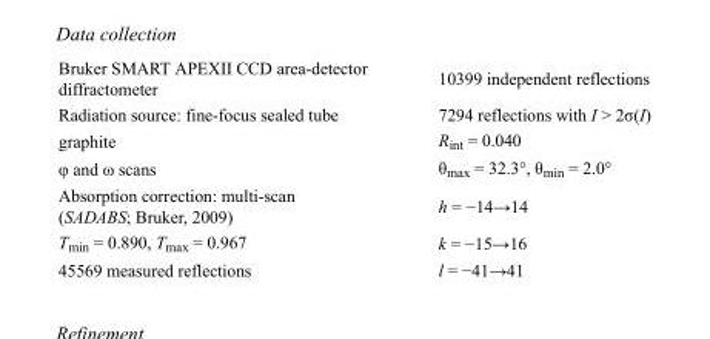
<table><tbody><tr><td>Bruker SMART APEXII CCD area-detector diffractometer</td><td>10399 independent reflections</td></tr><tr><td>Radiation source: fine-focus sealed tube</td><td>7294 reflections with I &gt; 2σ(I)</td></tr><tr><td>graphite</td><td>R<sub>int</sub> = 0.040</td></tr><tr><td>φ and ω scans</td><td>θ<sub>max</sub> = 32.3°, θ<sub>min</sub> = 2.0°</td></tr><tr><td>Absorption correction: multi-scan (SADABS; Bruker, 2009)</td><td>h = −14→14</td></tr><tr><td>T<sub>min</sub> = 0.890, T<sub>max</sub> = 0.967</td><td>k = −15→16</td></tr><tr><td>45569 measured reflections</td><td>l = −41→41</td></tr></tbody></table>